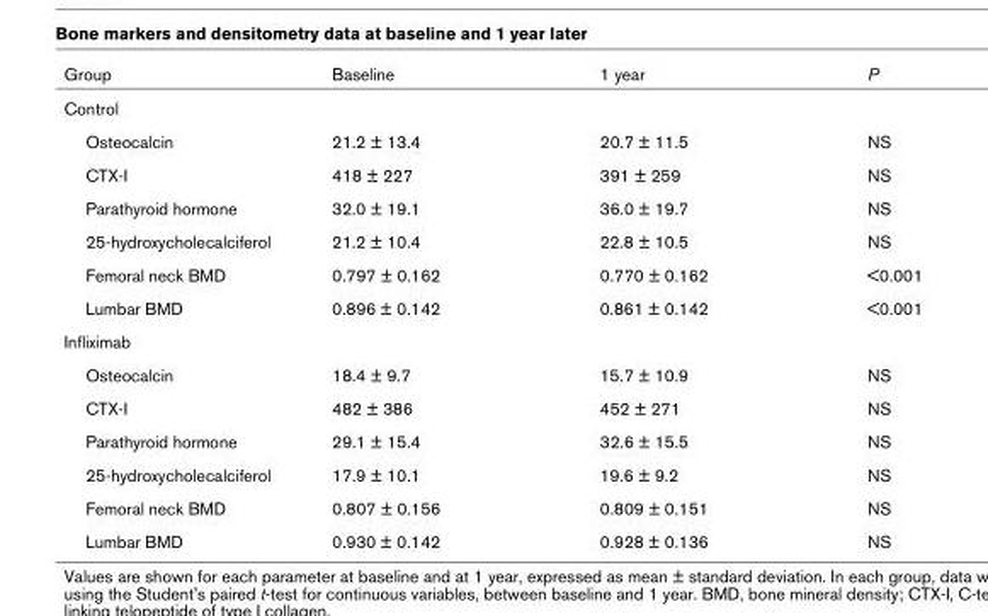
<table><thead><tr><td>Group</td><td>Baseline</td><td>1 year</td><td>P</td></tr></thead><tbody><tr><td colspan="4">Control</td></tr><tr><td>Osteocalcin</td><td>21.2 ± 13.4</td><td>20.7 ± 11.5</td><td>NS</td></tr><tr><td>CTX-I</td><td>418 ± 227</td><td>391 ± 259</td><td>NS</td></tr><tr><td>Parathyroid hormone</td><td>32.0 ± 19.1</td><td>36.0 ± 19.7</td><td>NS</td></tr><tr><td>25-hydroxycholecalciferol</td><td>21.2 ± 10.4</td><td>22.8 ± 10.5</td><td>NS</td></tr><tr><td>Femoral neck BMD</td><td>0.797 ± 0.162</td><td>0.770 ± 0.162</td><td>&lt;0.001</td></tr><tr><td>Lumbar BMD</td><td>0.896 ± 0.142</td><td>0.861 ± 0.142</td><td>&lt;0.001</td></tr><tr><td colspan="4">Infliximab</td></tr><tr><td>Osteocalcin</td><td>18.4 ± 9.7</td><td>15.7 ± 10.9</td><td>NS</td></tr><tr><td>CTX-I</td><td>482 ± 386</td><td>452 ± 271</td><td>NS</td></tr><tr><td>Parathyroid hormone</td><td>29.1 ± 15.4</td><td>32.6 ± 15.5</td><td>NS</td></tr><tr><td>25-hydroxycholecalciferol</td><td>17.9 ± 10.1</td><td>19.6 ± 9.2</td><td>NS</td></tr><tr><td>Femoral neck BMD</td><td>0.807 ± 0.156</td><td>0.809 ± 0.151</td><td>NS</td></tr><tr><td>Lumbar BMD</td><td>0.930 ± 0.142</td><td>0.928 ± 0.136</td><td>NS</td></tr></tbody></table>